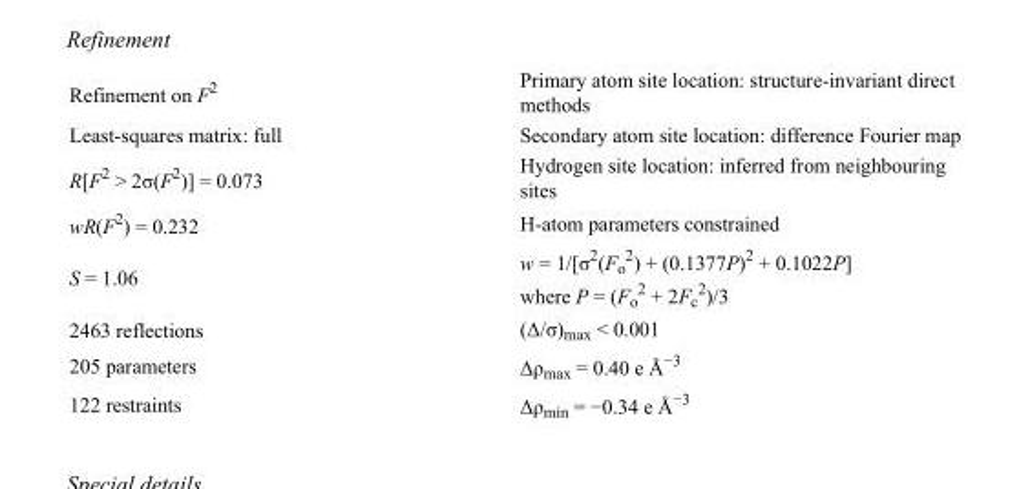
<table><tbody><tr><td>Refinement on F<sup>2</sup></td><td>Primary atom site location: structure-invariant direct methods</td></tr><tr><td>Least-squares matrix: full</td><td>Secondary atom site location: difference Fourier map</td></tr><tr><td>R[F<sup>2</sup> &gt; 2σ(F<sup>2</sup>)] = 0.073</td><td>Hydrogen site location: inferred from neighbouring sites</td></tr><tr><td>wR(F<sup>2</sup>) = 0.232</td><td>H-atom parameters constrained</td></tr><tr><td>S = 1.06</td><td>w = 1/[σ<sup>2</sup>(F<sub>o</sub> <sup>2</sup>) + (0.1377P)<sup>2</sup> + 0.1022P] where P = (F<sub>o</sub> <sup>2</sup> + 2F<sub>c</sub> <sup>2</sup>)/3</td></tr><tr><td>2463 reflections</td><td>(Δ/σ)<sub>max</sub> &lt; 0.001</td></tr><tr><td>205 parameters</td><td>Δρ<sub>max</sub> = 0.40 e Å<sup>−3</sup></td></tr><tr><td>122 restraints</td><td>Δρ<sub>min</sub> = −0.34 e Å<sup>−3</sup></td></tr></tbody></table>